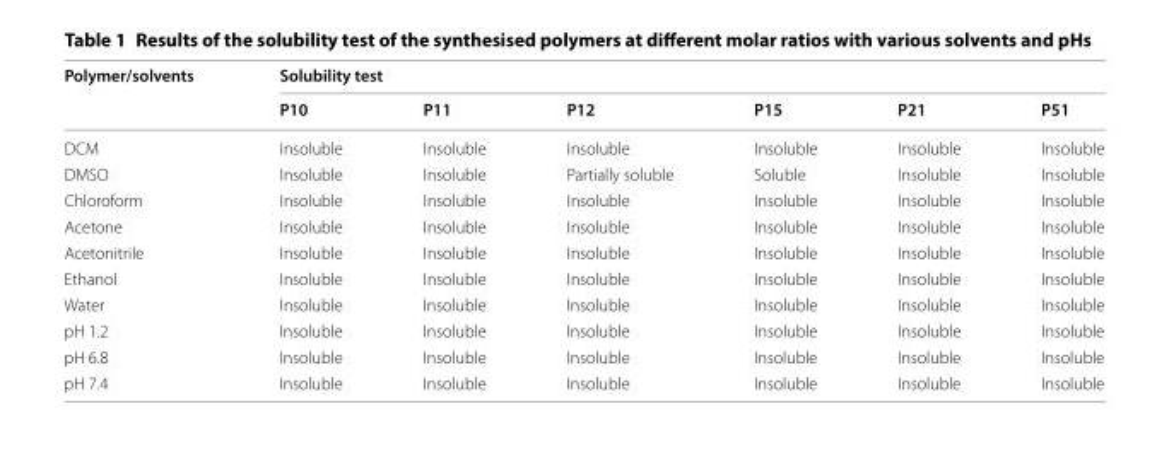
<table><thead><tr><td rowspan="2">Polymer/solvents</td><td colspan="6">Solubility test</td></tr><tr><td>P10</td><td>P11</td><td>P12</td><td>P15</td><td>P21</td><td>P51</td></tr></thead><tbody><tr><td>DCM</td><td>Insoluble</td><td>Insoluble</td><td>Insoluble</td><td>Insoluble</td><td>Insoluble</td><td>Insoluble</td></tr><tr><td>DMSO</td><td>Insoluble</td><td>Insoluble</td><td>Partially soluble</td><td>Soluble</td><td>Insoluble</td><td>Insoluble</td></tr><tr><td>Chloroform</td><td>Insoluble</td><td>Insoluble</td><td>Insoluble</td><td>Insoluble</td><td>Insoluble</td><td>Insoluble</td></tr><tr><td>Acetone</td><td>Insoluble</td><td>Insoluble</td><td>Insoluble</td><td>Insoluble</td><td>Insoluble</td><td>Insoluble</td></tr><tr><td>Acetonitrile</td><td>Insoluble</td><td>Insoluble</td><td>Insoluble</td><td>Insoluble</td><td>Insoluble</td><td>Insoluble</td></tr><tr><td>Ethanol</td><td>Insoluble</td><td>Insoluble</td><td>Insoluble</td><td>Insoluble</td><td>Insoluble</td><td>Insoluble</td></tr><tr><td>Water</td><td>Insoluble</td><td>Insoluble</td><td>Insoluble</td><td>Insoluble</td><td>Insoluble</td><td>Insoluble</td></tr><tr><td>pH 1.2</td><td>Insoluble</td><td>Insoluble</td><td>Insoluble</td><td>Insoluble</td><td>Insoluble</td><td>Insoluble</td></tr><tr><td>pH 6.8</td><td>Insoluble</td><td>Insoluble</td><td>Insoluble</td><td>Insoluble</td><td>Insoluble</td><td>Insoluble</td></tr><tr><td>pH 7.4</td><td>Insoluble</td><td>Insoluble</td><td>Insoluble</td><td>Insoluble</td><td>Insoluble</td><td>Insoluble</td></tr></tbody></table>